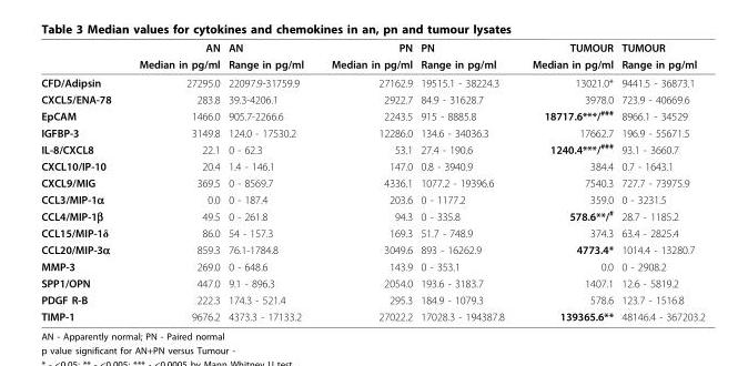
<table><thead><tr><td rowspan="2"></td><td rowspan="2">AN Median in pg/ml</td><td rowspan="2">AN Range in pg/ml</td><td rowspan="2">PN Median in pg/ml</td><td rowspan="2">PN Range in pg/ml</td><td rowspan="2">TUMOUR Median in pg/ml</td><td rowspan="2">TUMOUR Range in pg/ml</td></tr><tr></tr></thead><tbody><tr><td>CFD/Adipsin</td><td>27295.0</td><td>22097.9-31759.9</td><td>27162.9</td><td>19515.1 - 38224.3</td><td>13021.0*</td><td>9441.5 - 36873.1</td></tr><tr><td>CXCL5/ENA-78</td><td>283.8</td><td>39.3-4206.1</td><td>2922.7</td><td>84.9 - 31628.7</td><td>3978.0</td><td>723.9 - 40669.6</td></tr><tr><td>EpCAM</td><td>1466.0</td><td>905.7-2266.6</td><td>2243.5</td><td>915 - 8885.8</td><td>18717.6***/<sup>###</sup></td><td>8966.1 - 34529</td></tr><tr><td>IGFBP-3</td><td>3149.8</td><td>124.0 - 17530.2</td><td>12286.0</td><td>134.6 - 34036.3</td><td>17662.7</td><td>196.9 - 55671.5</td></tr><tr><td>IL-8/CXCL8</td><td>22.1</td><td>0 - 62.3</td><td>53.1</td><td>27.4 - 190.6</td><td>1240.4***/<sup>###</sup></td><td>93.1 - 3660.7</td></tr><tr><td>CXCL10/IP-10</td><td>20.4</td><td>1.4 - 146.1</td><td>147.0</td><td>0.8 - 3940.9</td><td>384.4</td><td>0.7 - 1643.1</td></tr><tr><td>CXCL9/MIG</td><td>369.5</td><td>0 - 8569.7</td><td>4336.1</td><td>1077.2 - 19396.6</td><td>7540.3</td><td>727.7 - 73975.9</td></tr><tr><td>CCL3/MIP-1α</td><td>0.0</td><td>0 - 187.4</td><td>203.6</td><td>0 - 1177.2</td><td>359.0</td><td>0 - 3231.5</td></tr><tr><td>CCL4/MIP-1β</td><td>49.5</td><td>0 - 261.8</td><td>94.3</td><td>0 - 335.8</td><td>578.6**/<sup>#</sup></td><td>28.7 - 1185.2</td></tr><tr><td>CCL15/MIP-1δ</td><td>86.0</td><td>54 - 157.3</td><td>169.3</td><td>51.7 - 748.9</td><td>374.3</td><td>63.4 - 2825.4</td></tr><tr><td>CCL20/MIP-3α</td><td>859.3</td><td>76.1-1784.8</td><td>3049.6</td><td>893 - 16262.9</td><td>4773.4*</td><td>1014.4 - 13280.7</td></tr><tr><td>MMP-3</td><td>269.0</td><td>0 - 648.6</td><td>143.9</td><td>0 - 353.1</td><td>0.0</td><td>0 - 2908.2</td></tr><tr><td>SPP1/OPN</td><td>447.0</td><td>9.1 - 896.3</td><td>2054.0</td><td>193.6 - 3183.7</td><td>1407.1</td><td>12.6 - 5819.2</td></tr><tr><td>PDGF R-B</td><td>222.3</td><td>174.3 - 521.4</td><td>295.3</td><td>184.9 - 1079.3</td><td>578.6</td><td>123.7 - 1516.8</td></tr><tr><td>TIMP-1</td><td>9676.2</td><td>4373.3 - 17133.2</td><td>27022.2</td><td>17028.3 - 194387.8</td><td>139365.6**</td><td>48146.4 - 367203.2</td></tr></tbody></table>